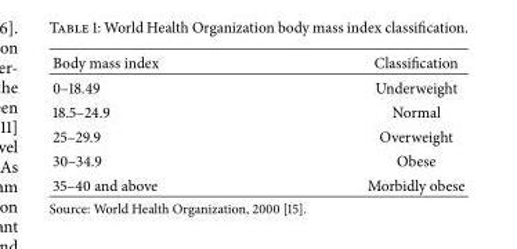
<table><thead><tr><td>Body mass index</td><td>Classification</td></tr></thead><tbody><tr><td>0–18.49</td><td>Underweight</td></tr><tr><td>18.5–24.9</td><td>Normal</td></tr><tr><td>25–29.9</td><td>Overweight</td></tr><tr><td>30–34.9</td><td>Obese</td></tr><tr><td>35–40 and above</td><td>Morbidly obese</td></tr></tbody></table>